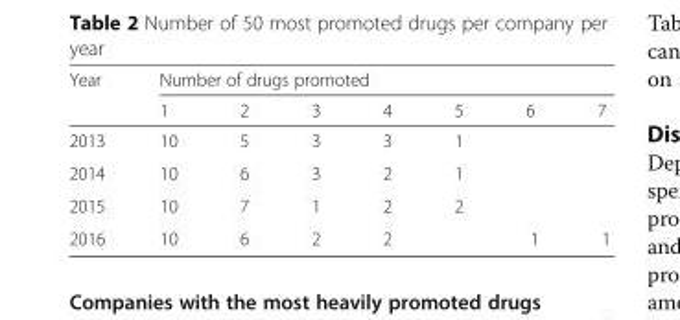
<table><thead><tr><td rowspan="2">Year</td><td colspan="7">Number of drugs promoted</td></tr><tr><td>1</td><td>2</td><td>3</td><td>4</td><td>5</td><td>6</td><td>7</td></tr></thead><tbody><tr><td>2013</td><td>10</td><td>5</td><td>3</td><td>3</td><td>1</td><td></td><td></td></tr><tr><td>2014</td><td>10</td><td>6</td><td>3</td><td>2</td><td>1</td><td></td><td></td></tr><tr><td>2015</td><td>10</td><td>7</td><td>1</td><td>2</td><td>2</td><td></td><td></td></tr><tr><td>2016</td><td>10</td><td>6</td><td>2</td><td>2</td><td></td><td>1</td><td>1</td></tr></tbody></table>